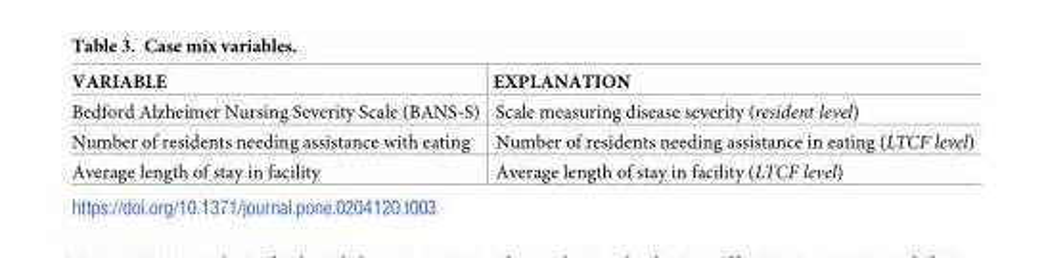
<table><thead><tr><td>VARIABLE</td><td>EXPLANATION</td></tr></thead><tbody><tr><td>Bedford Alzheimer Nursing Severity Scale (BANS-S)</td><td>Scale measuring disease severity (resident level)</td></tr><tr><td>Number of residents needing assistance with eating</td><td>Number of residents needing assistance in eating (LTCF level)</td></tr><tr><td>Average length of stay in facility</td><td>Average length of stay in facility (LTCF level)</td></tr></tbody></table>